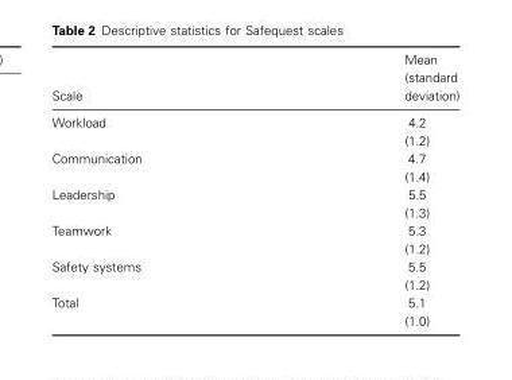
<table><thead><tr><td>Scale</td><td>Mean (standard deviation)</td></tr></thead><tbody><tr><td>Workload</td><td>4.2 (1.2)</td></tr><tr><td>Communication</td><td>4.7 (1.4)</td></tr><tr><td>Leadership</td><td>5.5 (1.3)</td></tr><tr><td>Teamwork</td><td>5.3 (1.2)</td></tr><tr><td>Safety systems</td><td>5.5 (1.2)</td></tr><tr><td>Total</td><td>5.1 (1.0)</td></tr></tbody></table>